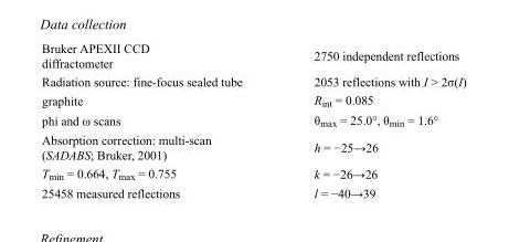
<table><tbody><tr><td>Bruker APEXII CCD diffractometer</td><td>2750 independent reflections</td></tr><tr><td>Radiation source: fine-focus sealed tube</td><td>2053 reflections with I &gt; 2σ(I)</td></tr><tr><td>graphite</td><td>R<sub>int</sub> = 0.085</td></tr><tr><td>phi and ω scans</td><td>θ<sub>max</sub> = 25.0°, θ<sub>min</sub> = 1.6°</td></tr><tr><td>Absorption correction: multi-scan (SADABS; Bruker, 2001)</td><td>h = −25→26</td></tr><tr><td>T<sub>min</sub> = 0.664, T<sub>max</sub> = 0.755</td><td>k = −26→26</td></tr><tr><td>25458 measured reflections</td><td>l = −40→39</td></tr></tbody></table>